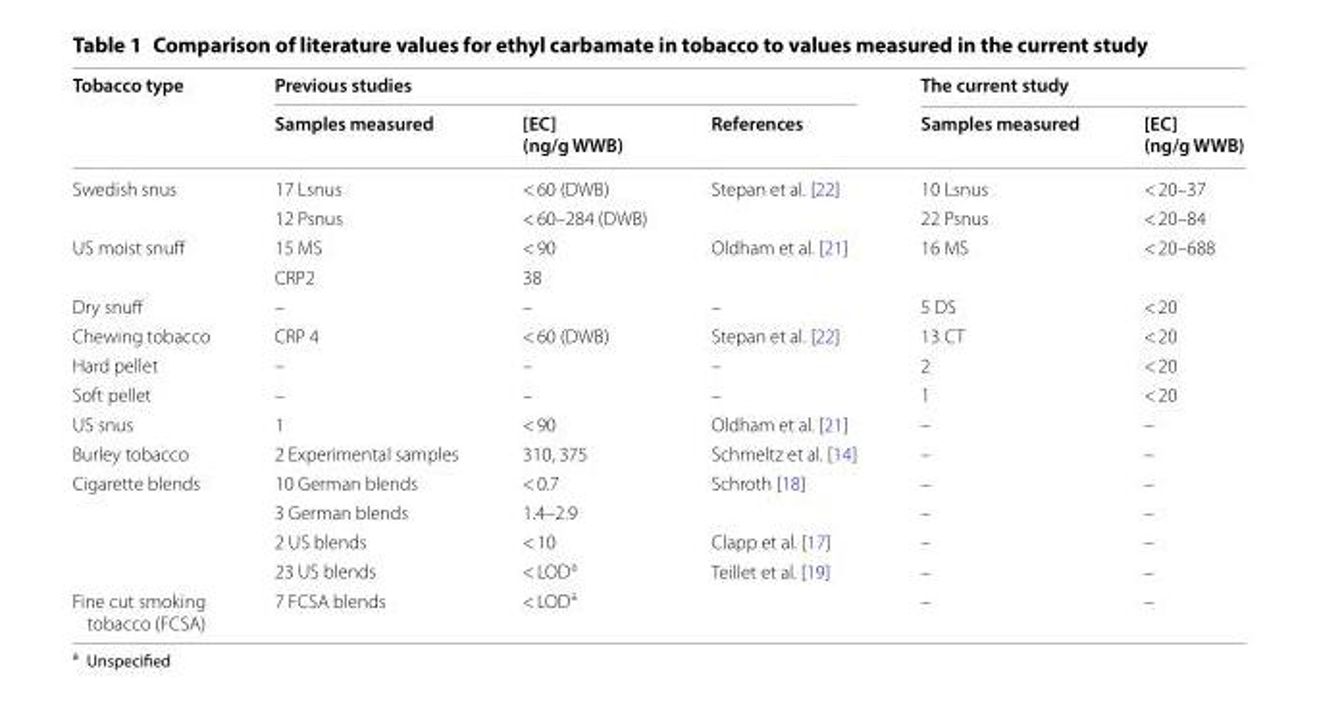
<table><thead><tr><td rowspan="2">Tobacco type</td><td colspan="3">Previous studies</td><td colspan="2">The current study</td></tr><tr><td>Samples measured</td><td>[EC] (ng/g WWB)</td><td>References</td><td>Samples measured</td><td>[EC] (ng/g WWB)</td></tr></thead><tbody><tr><td rowspan="2">Swedish snus</td><td>17 Lsnus</td><td>&lt; 60 (DWB)</td><td rowspan="2">Stepan et al. [22]</td><td>10 Lsnus</td><td>&lt; 20–37</td></tr><tr><td>12 Psnus</td><td>&lt; 60–284 (DWB)</td><td>22 Psnus</td><td>&lt; 20–84</td></tr><tr><td rowspan="2">US moist snuff</td><td>15 MS</td><td>&lt; 90</td><td rowspan="2">Oldham et al. [21]</td><td>16 MS</td><td>&lt; 20–688</td></tr><tr><td>CRP2</td><td>38</td><td></td><td></td></tr><tr><td>Dry snuff</td><td>–</td><td>–</td><td>–</td><td>5 DS</td><td>&lt; 20</td></tr><tr><td>Chewing tobacco</td><td>CRP 4</td><td>&lt; 60 (DWB)</td><td>Stepan et al. [22]</td><td>13 CT</td><td>&lt; 20</td></tr><tr><td>Hard pellet</td><td>–</td><td>–</td><td>–</td><td>2</td><td>&lt; 20</td></tr><tr><td>Soft pellet</td><td>–</td><td>–</td><td>–</td><td>1</td><td>&lt; 20</td></tr><tr><td>US snus</td><td>1</td><td>&lt; 90</td><td>Oldham et al. [21]</td><td>–</td><td>–</td></tr><tr><td>Burley tobacco</td><td>2 Experimental samples</td><td>310, 375</td><td>Schmeltz et al. [14]</td><td>–</td><td>–</td></tr><tr><td rowspan="4">Cigarette blends</td><td>10 German blends</td><td>&lt; 0.7</td><td rowspan="2">Schroth [18]</td><td>–</td><td>–</td></tr><tr><td>3 German blends</td><td>1.4–2.9</td><td>–</td><td>–</td></tr><tr><td>2 US blends</td><td>&lt; 10</td><td>Clapp et al. [17]</td><td>–</td><td>–</td></tr><tr><td>23 US blends</td><td>&lt; LOD<sup>a</sup></td><td rowspan="2">Teillet et al. [19]</td><td>–</td><td>–</td></tr><tr><td>Fine cut smoking tobacco (FCSA)</td><td>7 FCSA blends</td><td>&lt; LOD<sup>a</sup></td><td>–</td><td>–</td></tr></tbody></table>